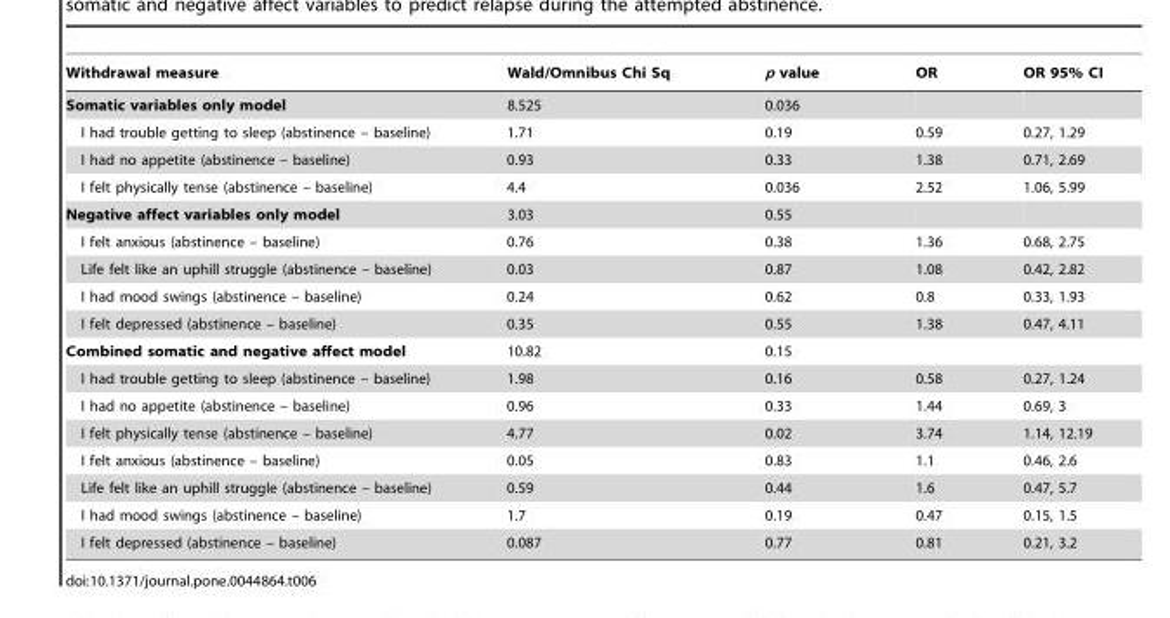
<table><thead><tr><td>Withdrawal measure</td><td>Wald/Omnibus Chi Sq</td><td>p value</td><td>OR</td><td>OR 95% CI</td></tr></thead><tbody><tr><td>Somatic variables only model</td><td>8.525</td><td>0.036</td><td></td><td></td></tr><tr><td>I had trouble getting to sleep (abstinence – baseline)</td><td>1.71</td><td>0.19</td><td>0.59</td><td>0.27, 1.29</td></tr><tr><td>I had no appetite (abstinence – baseline)</td><td>0.93</td><td>0.33</td><td>1.38</td><td>0.71, 2.69</td></tr><tr><td>I felt physically tense (abstinence – baseline)</td><td>4.4</td><td>0.036</td><td>2.52</td><td>1.06, 5.99</td></tr><tr><td>Negative affect variables only model</td><td>3.03</td><td>0.55</td><td></td><td></td></tr><tr><td>I felt anxious (abstinence – baseline)</td><td>0.76</td><td>0.38</td><td>1.36</td><td>0.68, 2.75</td></tr><tr><td>Life felt like an uphill struggle (abstinence – baseline)</td><td>0.03</td><td>0.87</td><td>1.08</td><td>0.42, 2.82</td></tr><tr><td>I had mood swings (abstinence – baseline)</td><td>0.24</td><td>0.62</td><td>0.8</td><td>0.33, 1.93</td></tr><tr><td>I felt depressed (abstinence – baseline)</td><td>0.35</td><td>0.55</td><td>1.38</td><td>0.47, 4.11</td></tr><tr><td>Combined somatic and negative affect model</td><td>10.82</td><td>0.15</td><td></td><td></td></tr><tr><td>I had trouble getting to sleep (abstinence – baseline)</td><td>1.98</td><td>0.16</td><td>0.58</td><td>0.27, 1.24</td></tr><tr><td>I had no appetite (abstinence – baseline)</td><td>0.96</td><td>0.33</td><td>1.44</td><td>0.69, 3</td></tr><tr><td>I felt physically tense (abstinence – baseline)</td><td>4.77</td><td>0.02</td><td>3.74</td><td>1.14, 12.19</td></tr><tr><td>I felt anxious (abstinence – baseline)</td><td>0.05</td><td>0.83</td><td>1.1</td><td>0.46, 2.6</td></tr><tr><td>Life felt like an uphill struggle (abstinence – baseline)</td><td>0.59</td><td>0.44</td><td>1.6</td><td>0.47, 5.7</td></tr><tr><td>I had mood swings (abstinence – baseline)</td><td>1.7</td><td>0.19</td><td>0.47</td><td>0.15, 1.5</td></tr><tr><td>I felt depressed (abstinence – baseline)</td><td>0.087</td><td>0.77</td><td>0.81</td><td>0.21, 3.2</td></tr></tbody></table>